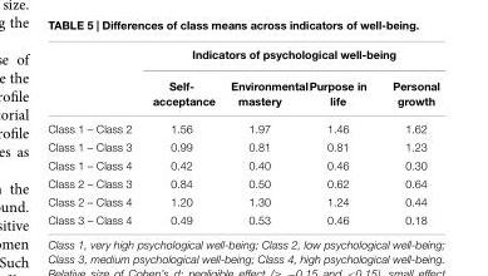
<table><thead><tr><td rowspan="2"></td><td colspan="4">Indicators of psychological well-being</td></tr><tr><td>Self- acceptance</td><td>Environmental mastery</td><td>Purpose in life</td><td>Personal growth</td></tr></thead><tbody><tr><td>Class 1 – Class 2</td><td>1.56</td><td>1.97</td><td>1.46</td><td>1.62</td></tr><tr><td>Class 1 – Class 3</td><td>0.99</td><td>0.81</td><td>0.81</td><td>1.23</td></tr><tr><td>Class 1 – Class 4</td><td>0.42</td><td>0.40</td><td>0.46</td><td>0.30</td></tr><tr><td>Class 2 – Class 3</td><td>0.84</td><td>0.50</td><td>0.62</td><td>0.64</td></tr><tr><td>Class 2 – Class 4</td><td>1.20</td><td>1.30</td><td>1.24</td><td>0.44</td></tr><tr><td>Class 3 – Class 4</td><td>0.49</td><td>0.53</td><td>0.46</td><td>0.18</td></tr></tbody></table>